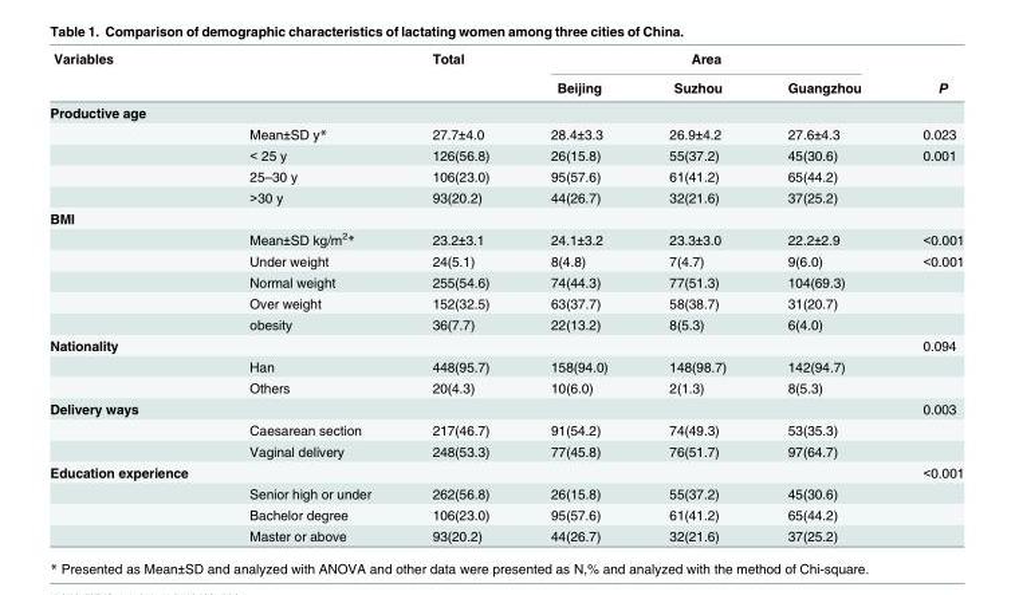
<table><thead><tr><td rowspan="2">Variables</td><td rowspan="2"></td><td rowspan="2">Total</td><td colspan="3">Area</td><td rowspan="2">P</td></tr><tr><td>Beijing</td><td>Suzhou</td><td>Guangzhou</td></tr></thead><tbody><tr><td colspan="7">Productive age</td></tr><tr><td></td><td>Mean±SD y*</td><td>27.7±4.0</td><td>28.4±3.3</td><td>26.9±4.2</td><td>27.6±4.3</td><td>0.023</td></tr><tr><td></td><td>&lt; 25 y</td><td>126(56.8)</td><td>26(15.8)</td><td>55(37.2)</td><td>45(30.6)</td><td>0.001</td></tr><tr><td></td><td>25–30 y</td><td>106(23.0)</td><td>95(57.6)</td><td>61(41.2)</td><td>65(44.2)</td><td></td></tr><tr><td></td><td>&gt;30 y</td><td>93(20.2)</td><td>44(26.7)</td><td>32(21.6)</td><td>37(25.2)</td><td></td></tr><tr><td colspan="7">BMI</td></tr><tr><td></td><td>Mean±SD kg/m<sup>2</sup>*</td><td>23.2±3.1</td><td>24.1±3.2</td><td>23.3±3.0</td><td>22.2±2.9</td><td>&lt;0.001</td></tr><tr><td></td><td>Under weight</td><td>24(5.1)</td><td>8(4.8)</td><td>7(4.7)</td><td>9(6.0)</td><td>&lt;0.001</td></tr><tr><td></td><td>Normal weight</td><td>255(54.6)</td><td>74(44.3)</td><td>77(51.3)</td><td>104(69.3)</td><td></td></tr><tr><td></td><td>Over weight</td><td>152(32.5)</td><td>63(37.7)</td><td>58(38.7)</td><td>31(20.7)</td><td></td></tr><tr><td></td><td>obesity</td><td>36(7.7)</td><td>22(13.2)</td><td>8(5.3)</td><td>6(4.0)</td><td></td></tr><tr><td rowspan="3">Nationality</td><td></td><td></td><td></td><td></td><td></td><td>0.094</td></tr><tr><td>Han</td><td>448(95.7)</td><td>158(94.0)</td><td>148(98.7)</td><td>142(94.7)</td><td></td></tr><tr><td>Others</td><td>20(4.3)</td><td>10(6.0)</td><td>2(1.3)</td><td>8(5.3)</td><td></td></tr><tr><td rowspan="3">Delivery ways</td><td></td><td></td><td></td><td></td><td></td><td>0.003</td></tr><tr><td>Caesarean section</td><td>217(46.7)</td><td>91(54.2)</td><td>74(49.3)</td><td>53(35.3)</td><td></td></tr><tr><td>Vaginal delivery</td><td>248(53.3)</td><td>77(45.8)</td><td>76(51.7)</td><td>97(64.7)</td><td></td></tr><tr><td rowspan="4">Education experience</td><td></td><td></td><td></td><td></td><td></td><td>&lt;0.001</td></tr><tr><td>Senior high or under</td><td>262(56.8)</td><td>26(15.8)</td><td>55(37.2)</td><td>45(30.6)</td><td></td></tr><tr><td>Bachelor degree</td><td>106(23.0)</td><td>95(57.6)</td><td>61(41.2)</td><td>65(44.2)</td><td></td></tr><tr><td>Master or above</td><td>93(20.2)</td><td>44(26.7)</td><td>32(21.6)</td><td>37(25.2)</td><td></td></tr></tbody></table>